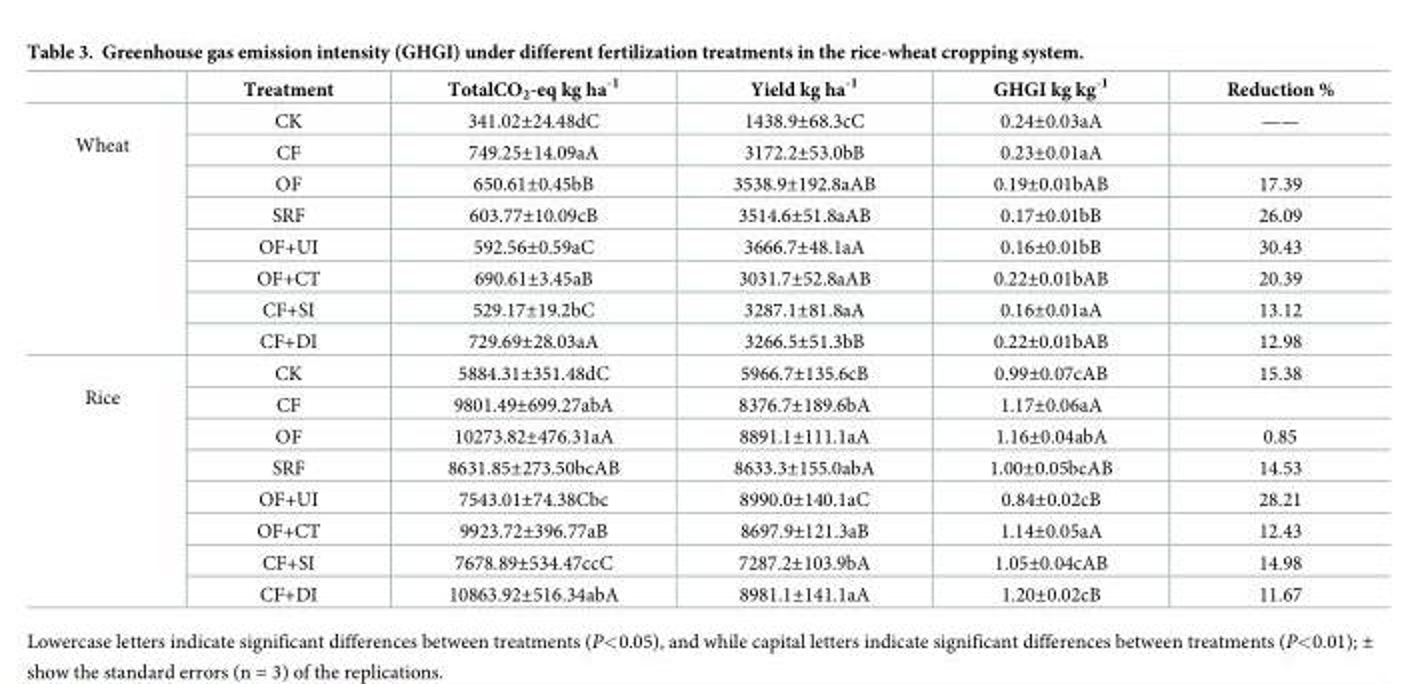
<table><thead><tr><td></td><td>Treatment</td><td>TotalCO<sub>2</sub>-eq kg ha<sup>-1</sup></td><td>Yield kg ha<sup>-1</sup></td><td>GHGI kg kg<sup>-1</sup></td><td>Reduction %</td></tr></thead><tbody><tr><td rowspan="8">Wheat</td><td>CK</td><td>341.02±24.48dC</td><td>1438.9±68.3cC</td><td>0.24±0.03aA</td><td>——</td></tr><tr><td>CF</td><td>749.25±14.09aA</td><td>3172.2±53.0bB</td><td>0.23±0.01aA</td><td></td></tr><tr><td>OF</td><td>650.61±0.45bB</td><td>3538.9±192.8aAB</td><td>0.19±0.01bAB</td><td>17.39</td></tr><tr><td>SRF</td><td>603.77±10.09cB</td><td>3514.6±51.8aAB</td><td>0.17±0.01bB</td><td>26.09</td></tr><tr><td>OF+UI</td><td>592.56±0.59aC</td><td>3666.7±48.1aA</td><td>0.16±0.01bB</td><td>30.43</td></tr><tr><td>OF+CT</td><td>690.61±3.45aB</td><td>3031.7±52.8aAB</td><td>0.22±0.01bAB</td><td>20.39</td></tr><tr><td>CF+SI</td><td>529.17±19.2bC</td><td>3287.1±81.8aA</td><td>0.16±0.01aA</td><td>13.12</td></tr><tr><td>CF+DI</td><td>729.69±28.03aA</td><td>3266.5±51.3bB</td><td>0.22±0.01bAB</td><td>12.98</td></tr><tr><td rowspan="8">Rice</td><td>CK</td><td>5884.31±351.48dC</td><td>5966.7±135.6cB</td><td>0.99±0.07cAB</td><td>15.38</td></tr><tr><td>CF</td><td>9801.49±699.27abA</td><td>8376.7±189.6bA</td><td>1.17±0.06aA</td><td></td></tr><tr><td>OF</td><td>10273.82±476.31aA</td><td>8891.1±111.1aA</td><td>1.16±0.04abA</td><td>0.85</td></tr><tr><td>SRF</td><td>8631.85±273.50bcAB</td><td>8633.3±155.0abA</td><td>1.00±0.05bcAB</td><td>14.53</td></tr><tr><td>OF+UI</td><td>7543.01±74.38Cbc</td><td>8990.0±140.1aC</td><td>0.84±0.02cB</td><td>28.21</td></tr><tr><td>OF+CT</td><td>9923.72±396.77aB</td><td>8697.9±121.3aB</td><td>1.14±0.05aA</td><td>12.43</td></tr><tr><td>CF+SI</td><td>7678.89±534.47ccC</td><td>7287.2±103.9bA</td><td>1.05±0.04cAB</td><td>14.98</td></tr><tr><td>CF+DI</td><td>10863.92±516.34abA</td><td>8981.1±141.1aA</td><td>1.20±0.02cB</td><td>11.67</td></tr></tbody></table>